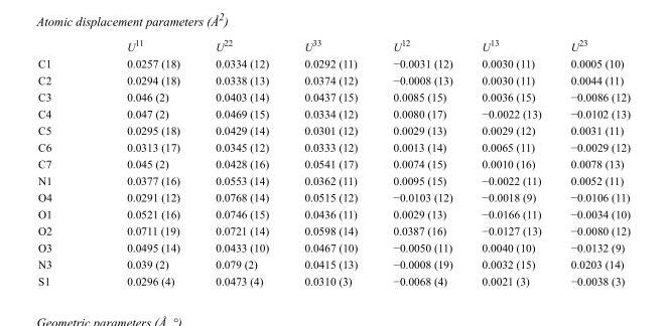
<table><thead><tr><td></td><td>U<sup>11</sup></td><td>U<sup>22</sup></td><td>U<sup>33</sup></td><td>U<sup>12</sup></td><td>U<sup>13</sup></td><td>U<sup>23</sup></td></tr></thead><tbody><tr><td>C1</td><td>0.0257 (18)</td><td>0.0334 (12)</td><td>0.0292 (11)</td><td>−0.0031 (12)</td><td>0.0030 (11)</td><td>0.0005 (10)</td></tr><tr><td>C2</td><td>0.0294 (18)</td><td>0.0338 (13)</td><td>0.0374 (12)</td><td>−0.0008 (13)</td><td>0.0030 (11)</td><td>0.0044 (11)</td></tr><tr><td>C3</td><td>0.046 (2)</td><td>0.0403 (14)</td><td>0.0437 (15)</td><td>0.0085 (15)</td><td>0.0036 (15)</td><td>−0.0086 (12)</td></tr><tr><td>C4</td><td>0.047 (2)</td><td>0.0469 (15)</td><td>0.0334 (12)</td><td>0.0080 (17)</td><td>−0.0022 (13)</td><td>−0.0102 (13)</td></tr><tr><td>C5</td><td>0.0295 (18)</td><td>0.0429 (14)</td><td>0.0301 (12)</td><td>0.0029 (13)</td><td>0.0029 (12)</td><td>0.0031 (11)</td></tr><tr><td>C6</td><td>0.0313 (17)</td><td>0.0345 (12)</td><td>0.0333 (12)</td><td>0.0013 (14)</td><td>0.0065 (11)</td><td>−0.0029 (12)</td></tr><tr><td>C7</td><td>0.045 (2)</td><td>0.0428 (16)</td><td>0.0541 (17)</td><td>0.0074 (15)</td><td>0.0010 (16)</td><td>0.0078 (13)</td></tr><tr><td>N1</td><td>0.0377 (16)</td><td>0.0553 (14)</td><td>0.0362 (11)</td><td>0.0095 (15)</td><td>−0.0022 (11)</td><td>0.0052 (11)</td></tr><tr><td>O4</td><td>0.0291 (12)</td><td>0.0768 (14)</td><td>0.0515 (12)</td><td>−0.0103 (12)</td><td>−0.0018 (9)</td><td>−0.0106 (11)</td></tr><tr><td>O1</td><td>0.0521 (16)</td><td>0.0746 (15)</td><td>0.0436 (11)</td><td>0.0029 (13)</td><td>−0.0166 (11)</td><td>−0.0034 (10)</td></tr><tr><td>O2</td><td>0.0711 (19)</td><td>0.0721 (14)</td><td>0.0598 (14)</td><td>0.0387 (16)</td><td>−0.0127 (13)</td><td>−0.0080 (12)</td></tr><tr><td>O3</td><td>0.0495 (14)</td><td>0.0433 (10)</td><td>0.0467 (10)</td><td>−0.0050 (11)</td><td>0.0040 (10)</td><td>−0.0132 (9)</td></tr><tr><td>N3</td><td>0.039 (2)</td><td>0.079 (2)</td><td>0.0415 (13)</td><td>−0.0008 (19)</td><td>0.0032 (15)</td><td>0.0203 (14)</td></tr><tr><td>S1</td><td>0.0296 (4)</td><td>0.0473 (4)</td><td>0.0310 (3)</td><td>−0.0068 (4)</td><td>0.0021 (3)</td><td>−0.0038 (3)</td></tr></tbody></table>